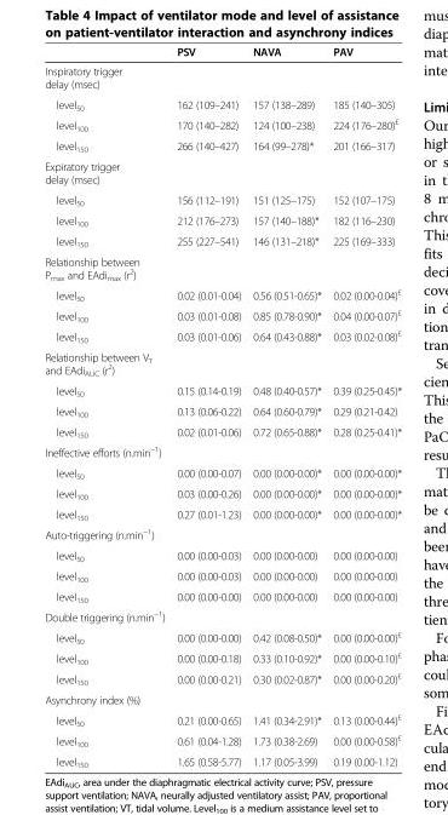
<table><thead><tr><td></td><td>PSV</td><td>NAVA</td><td>PAV</td></tr></thead><tbody><tr><td colspan="4">Inspiratory trigger delay (msec)</td></tr><tr><td>level<sub>50</sub></td><td>162 (109–241)</td><td>157 (138–289)</td><td>185 (140–305)</td></tr><tr><td>level<sub>100</sub></td><td>170 (140–282)</td><td>124 (100–238)</td><td>224 (176–280)<sup>£</sup></td></tr><tr><td>level<sub>150</sub></td><td>266 (140–427)</td><td>164 (99–278)*</td><td>201 (166–317)</td></tr><tr><td colspan="4">Expiratory trigger delay (msec)</td></tr><tr><td>level<sub>50</sub></td><td>156 (112–191)</td><td>151 (125–175)</td><td>152 (107–175)</td></tr><tr><td>level<sub>100</sub></td><td>212 (176–273)</td><td>157 (140–188)*</td><td>182 (116–230)</td></tr><tr><td>level<sub>150</sub></td><td>255 (227–541)</td><td>146 (131–218)*</td><td>225 (169–333)</td></tr><tr><td colspan="4">Relationship between P<sub>max</sub> and EAdi<sub>max</sub> (r<sup>2</sup>)</td></tr><tr><td>level<sub>50</sub></td><td>0.02 (0.01-0.04)</td><td>0.56 (0.51-0.65)*</td><td>0.02 (0.00-0.04)<sup>£</sup></td></tr><tr><td>level<sub>100</sub></td><td>0.03 (0.01-0.08)</td><td>0.85 (0.78-0.90)*</td><td>0.04 (0.00-0.07)<sup>£</sup></td></tr><tr><td>level<sub>150</sub></td><td>0.03 (0.01-0.06)</td><td>0.64 (0.43-0.88)*</td><td>0.03 (0.02-0.08)<sup>£</sup></td></tr><tr><td colspan="4">Relationship between V<sub>T</sub> and EAdi<sub>AUC</sub> (r<sup>2</sup>)</td></tr><tr><td>level<sub>50</sub></td><td>0.15 (0.14-0.19)</td><td>0.48 (0.40-0.57)*</td><td>0.39 (0.25-0.45)*</td></tr><tr><td>level<sub>100</sub></td><td>0.13 (0.06-0.22)</td><td>0.64 (0.60-0.79)*</td><td>0.29 (0.21-0.42)</td></tr><tr><td>level<sub>150</sub></td><td>0.02 (0.01-0.06)</td><td>0.72 (0.65-0.88)*</td><td>0.28 (0.25-0.41)*</td></tr><tr><td colspan="4">Ineffective efforts (n.min<sup>−1</sup>)</td></tr><tr><td>level<sub>50</sub></td><td>0.00 (0.00-0.07)</td><td>0.00 (0.00-0.00)*</td><td>0.00 (0.00-0.00)*</td></tr><tr><td>level<sub>100</sub></td><td>0.03 (0.00-0.26)</td><td>0.00 (0.00-0.00)*</td><td>0.00 (0.00-0.00)*</td></tr><tr><td>level<sub>150</sub></td><td>0.27 (0.01-1.23)</td><td>0.00 (0.00-0.00)*</td><td>0.00 (0.00-0.00)*</td></tr><tr><td colspan="4">Auto-triggering (n.min<sup>−1</sup>)</td></tr><tr><td>level<sub>50</sub></td><td>0.00 (0.00-0.03)</td><td>0.00 (0.00-0.00)</td><td>0.00 (0.00-0.00)</td></tr><tr><td>level<sub>100</sub></td><td>0.00 (0.00-0.03)</td><td>0.00 (0.00-0.00)</td><td>0.00 (0.00-0.00)</td></tr><tr><td>level<sub>150</sub></td><td>0.00 (0.00-0.00)</td><td>0.00 (0.00-0.00)</td><td>0.00 (0.00-0.00)</td></tr><tr><td colspan="4">Double triggering (n.min<sup>−1</sup>)</td></tr><tr><td>level<sub>50</sub></td><td>0.00 (0.00-0.00)</td><td>0.42 (0.08-0.50)*</td><td>0.00 (0.00-0.00)<sup>£</sup></td></tr><tr><td>level<sub>100</sub></td><td>0.00 (0.00-0.18)</td><td>0.33 (0.10-0.92)*</td><td>0.00 (0.00-0.10)<sup>£</sup></td></tr><tr><td>level<sub>150</sub></td><td>0.00 (0.00-0.21)</td><td>0.30 (0.02-0.87)*</td><td>0.00 (0.00-0.20)<sup>£</sup></td></tr><tr><td colspan="4">Asynchrony index (%)</td></tr><tr><td>level<sub>50</sub></td><td>0.21 (0.00-0.65)</td><td>1.41 (0.34-2.91)*</td><td>0.13 (0.00-0.44)<sup>£</sup></td></tr><tr><td>level<sub>100</sub></td><td>0.61 (0.04-1.28)</td><td>1.73 (0.38-2.69)</td><td>0.00 (0.00-0.58)<sup>£</sup></td></tr><tr><td>level<sub>150</sub></td><td>1.65 (0.58-5.77)</td><td>1.17 (0.05-3.99)</td><td>0.19 (0.00-1.12)</td></tr></tbody></table>